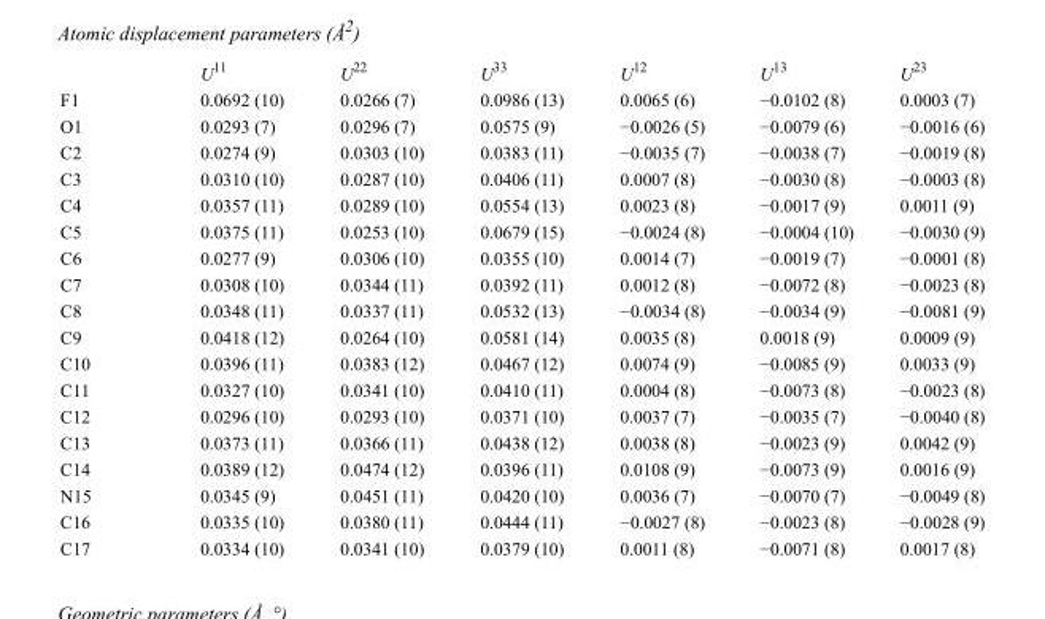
<table><thead><tr><td></td><td>U<sup>11</sup></td><td>U<sup>22</sup></td><td>U<sup>33</sup></td><td>U<sup>12</sup></td><td>U<sup>13</sup></td><td>U<sup>23</sup></td></tr></thead><tbody><tr><td>F1</td><td>0.0692 (10)</td><td>0.0266 (7)</td><td>0.0986 (13)</td><td>0.0065 (6)</td><td>−0.0102 (8)</td><td>0.0003 (7)</td></tr><tr><td>O1</td><td>0.0293 (7)</td><td>0.0296 (7)</td><td>0.0575 (9)</td><td>−0.0026 (5)</td><td>−0.0079 (6)</td><td>−0.0016 (6)</td></tr><tr><td>C2</td><td>0.0274 (9)</td><td>0.0303 (10)</td><td>0.0383 (11)</td><td>−0.0035 (7)</td><td>−0.0038 (7)</td><td>−0.0019 (8)</td></tr><tr><td>C3</td><td>0.0310 (10)</td><td>0.0287 (10)</td><td>0.0406 (11)</td><td>0.0007 (8)</td><td>−0.0030 (8)</td><td>−0.0003 (8)</td></tr><tr><td>C4</td><td>0.0357 (11)</td><td>0.0289 (10)</td><td>0.0554 (13)</td><td>0.0023 (8)</td><td>−0.0017 (9)</td><td>0.0011 (9)</td></tr><tr><td>C5</td><td>0.0375 (11)</td><td>0.0253 (10)</td><td>0.0679 (15)</td><td>−0.0024 (8)</td><td>−0.0004 (10)</td><td>−0.0030 (9)</td></tr><tr><td>C6</td><td>0.0277 (9)</td><td>0.0306 (10)</td><td>0.0355 (10)</td><td>0.0014 (7)</td><td>−0.0019 (7)</td><td>−0.0001 (8)</td></tr><tr><td>C7</td><td>0.0308 (10)</td><td>0.0344 (11)</td><td>0.0392 (11)</td><td>0.0012 (8)</td><td>−0.0072 (8)</td><td>−0.0023 (8)</td></tr><tr><td>C8</td><td>0.0348 (11)</td><td>0.0337 (11)</td><td>0.0532 (13)</td><td>−0.0034 (8)</td><td>−0.0034 (9)</td><td>−0.0081 (9)</td></tr><tr><td>C9</td><td>0.0418 (12)</td><td>0.0264 (10)</td><td>0.0581 (14)</td><td>0.0035 (8)</td><td>0.0018 (9)</td><td>0.0009 (9)</td></tr><tr><td>C10</td><td>0.0396 (11)</td><td>0.0383 (12)</td><td>0.0467 (12)</td><td>0.0074 (9)</td><td>−0.0085 (9)</td><td>0.0033 (9)</td></tr><tr><td>C11</td><td>0.0327 (10)</td><td>0.0341 (10)</td><td>0.0410 (11)</td><td>0.0004 (8)</td><td>−0.0073 (8)</td><td>−0.0023 (8)</td></tr><tr><td>C12</td><td>0.0296 (10)</td><td>0.0293 (10)</td><td>0.0371 (10)</td><td>0.0037 (7)</td><td>−0.0035 (7)</td><td>−0.0040 (8)</td></tr><tr><td>C13</td><td>0.0373 (11)</td><td>0.0366 (11)</td><td>0.0438 (12)</td><td>0.0038 (8)</td><td>−0.0023 (9)</td><td>0.0042 (9)</td></tr><tr><td>C14</td><td>0.0389 (12)</td><td>0.0474 (12)</td><td>0.0396 (11)</td><td>0.0108 (9)</td><td>−0.0073 (9)</td><td>0.0016 (9)</td></tr><tr><td>N15</td><td>0.0345 (9)</td><td>0.0451 (11)</td><td>0.0420 (10)</td><td>0.0036 (7)</td><td>−0.0070 (7)</td><td>−0.0049 (8)</td></tr><tr><td>C16</td><td>0.0335 (10)</td><td>0.0380 (11)</td><td>0.0444 (11)</td><td>−0.0027 (8)</td><td>−0.0023 (8)</td><td>−0.0028 (9)</td></tr><tr><td>C17</td><td>0.0334 (10)</td><td>0.0341 (10)</td><td>0.0379 (10)</td><td>0.0011 (8)</td><td>−0.0071 (8)</td><td>0.0017 (8)</td></tr></tbody></table>